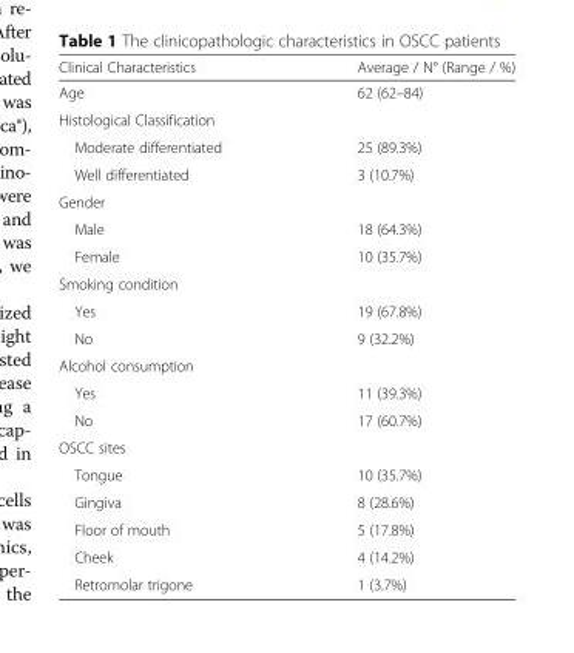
<table><thead><tr><td>Clinical Characteristics</td><td>Average / N° (Range / %)</td></tr></thead><tbody><tr><td>Age</td><td>62 (62–84)</td></tr><tr><td colspan="2">Histological Classification</td></tr><tr><td>Moderate differentiated</td><td>25 (89.3%)</td></tr><tr><td>Well differentiated</td><td>3 (10.7%)</td></tr><tr><td colspan="2">Gender</td></tr><tr><td>Male</td><td>18 (64.3%)</td></tr><tr><td>Female</td><td>10 (35.7%)</td></tr><tr><td colspan="2">Smoking condition</td></tr><tr><td>Yes</td><td>19 (67.8%)</td></tr><tr><td>No</td><td>9 (32.2%)</td></tr><tr><td colspan="2">Alcohol consumption</td></tr><tr><td>Yes</td><td>11 (39.3%)</td></tr><tr><td>No</td><td>17 (60.7%)</td></tr><tr><td colspan="2">OSCC sites</td></tr><tr><td>Tongue</td><td>10 (35.7%)</td></tr><tr><td>Gingiva</td><td>8 (28.6%)</td></tr><tr><td>Floor of mouth</td><td>5 (17.8%)</td></tr><tr><td>Cheek</td><td>4 (14.2%)</td></tr><tr><td>Retromolar trigone</td><td>1 (3.7%)</td></tr></tbody></table>